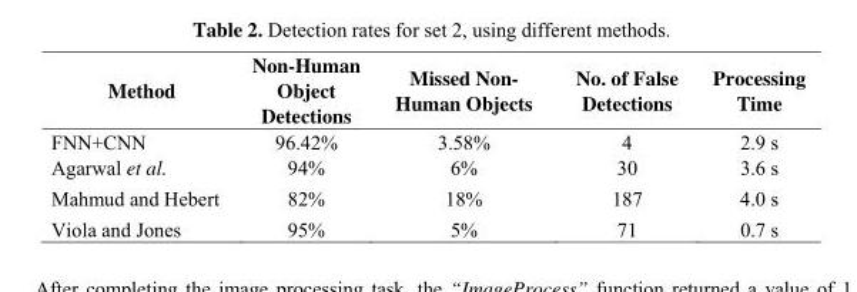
<table><thead><tr><td>Method</td><td>Non-Human Object Detections</td><td>Missed Non- Human Objects</td><td>No. of False Detections</td><td>Processing Time</td></tr></thead><tbody><tr><td>FNN+CNN</td><td>96.42%</td><td>3.58%</td><td>4</td><td>2.9 s</td></tr><tr><td>Agarwal et al.</td><td>94%</td><td>6%</td><td>30</td><td>3.6 s</td></tr><tr><td>Mahmud and Hebert</td><td>82%</td><td>18%</td><td>187</td><td>4.0 s</td></tr><tr><td>Viola and Jones</td><td>95%</td><td>5%</td><td>71</td><td>0.7 s</td></tr></tbody></table>